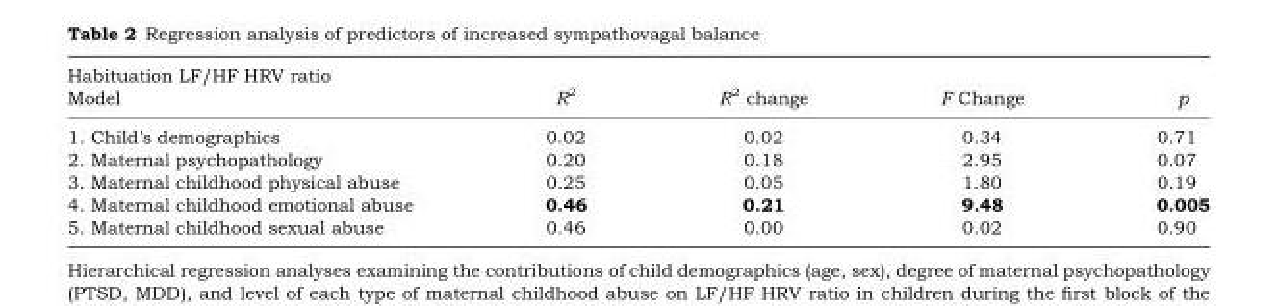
<table><thead><tr><td>Habituation LF/HF HRV ratio Model</td><td>R<sup>2</sup></td><td>R<sup>2</sup> change</td><td>F Change</td><td>p</td></tr></thead><tbody><tr><td>1. Child’s demographics</td><td>0.02</td><td>0.02</td><td>0.34</td><td>0.71</td></tr><tr><td>2. Maternal psychopathology</td><td>0.20</td><td>0.18</td><td>2.95</td><td>0.07</td></tr><tr><td>3. Maternal childhood physical abuse</td><td>0.25</td><td>0.05</td><td>1.80</td><td>0.19</td></tr><tr><td>4. Maternal childhood emotional abuse</td><td>0.46</td><td>0.21</td><td>9.48</td><td>0.005</td></tr><tr><td>5. Maternal childhood sexual abuse</td><td>0.46</td><td>0.00</td><td>0.02</td><td>0.90</td></tr></tbody></table>